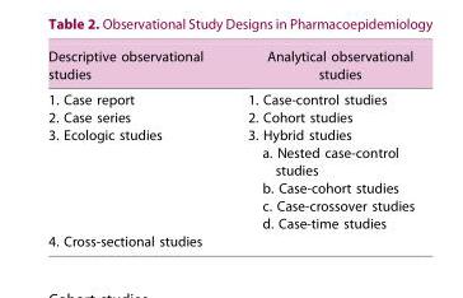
<table><thead><tr><td>Descriptive observational studies</td><td>Analytical observational studies</td></tr></thead><tbody><tr><td>1. Case report</td><td>1. Case-control studies</td></tr><tr><td>2. Case series</td><td>2. Cohort studies</td></tr><tr><td rowspan="5">3. Ecologic studies</td><td>3. Hybrid studies</td></tr><tr><td>a. Nested case-control studies</td></tr><tr><td>b. Case-cohort studies</td></tr><tr><td>c. Case-crossover studies</td></tr><tr><td>d. Case-time studies</td></tr><tr><td>4. Cross-sectional studies</td><td></td></tr></tbody></table>